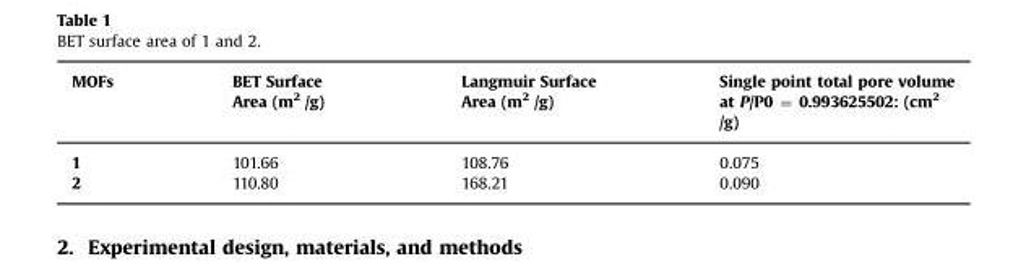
<table><thead><tr><td>MOFs</td><td>BET Surface Area (m<sup>2</sup> /g)</td><td>Langmuir Surface Area (m<sup>2</sup> /g)</td><td>Single point total pore volume at P/P0 = 0.993625502: (cm<sup>2</sup> /g)</td></tr></thead><tbody><tr><td>1</td><td>101.66</td><td>108.76</td><td>0.075</td></tr><tr><td>2</td><td>110.80</td><td>168.21</td><td>0.090</td></tr></tbody></table>